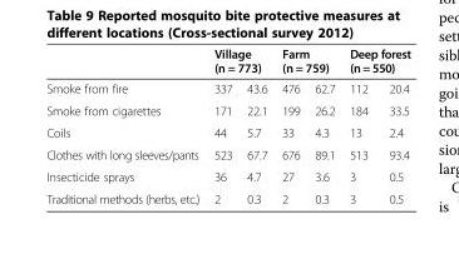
<table><thead><tr><td rowspan="2">Smoke from fire</td><td colspan="2">Village (n = 773)</td><td colspan="2">Farm (n = 759)</td><td colspan="2">Deep forest (n = 550)</td></tr><tr><td>337</td><td>43.6</td><td>476</td><td>62.7</td><td>112</td><td>20.4</td></tr></thead><tbody><tr><td>Smoke from cigarettes</td><td>171</td><td>22.1</td><td>199</td><td>26.2</td><td>184</td><td>33.5</td></tr><tr><td>Coils</td><td>44</td><td>5.7</td><td>33</td><td>4.3</td><td>13</td><td>2.4</td></tr><tr><td>Clothes with long sleeves/pants</td><td>523</td><td>67.7</td><td>676</td><td>89.1</td><td>513</td><td>93.4</td></tr><tr><td>Insecticide sprays</td><td>36</td><td>4.7</td><td>27</td><td>3.6</td><td>3</td><td>0.5</td></tr><tr><td>Traditional methods (herbs, etc.)</td><td>2</td><td>0.3</td><td>2</td><td>0.3</td><td>3</td><td>0.5</td></tr></tbody></table>